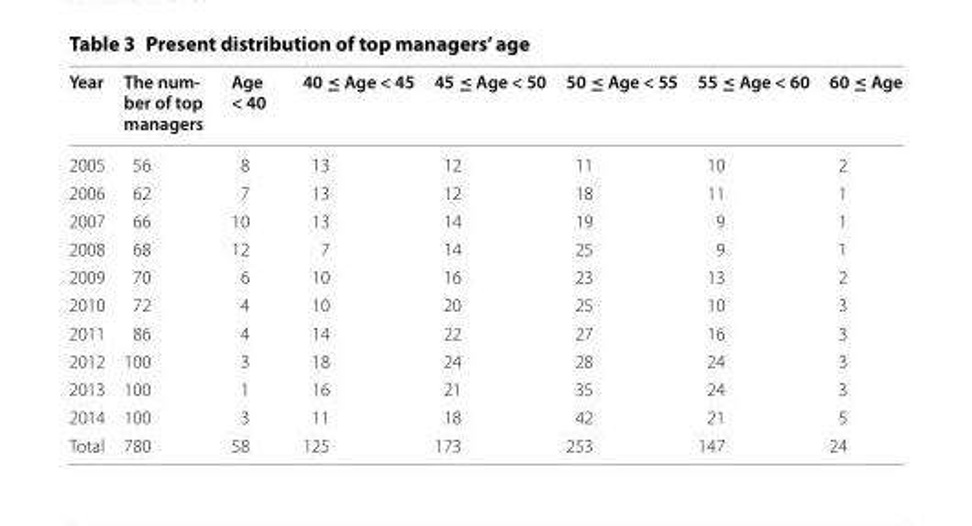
<table><thead><tr><td>Year</td><td>The num- ber of top managers</td><td>Age &lt; 40</td><td>40 ≤ Age &lt; 45</td><td>45 ≤ Age &lt; 50</td><td>50 ≤ Age &lt; 55</td><td>55 ≤ Age &lt; 60</td><td>60 ≤ Age</td></tr></thead><tbody><tr><td>2005</td><td>56</td><td>8</td><td>13</td><td>12</td><td>11</td><td>10</td><td>2</td></tr><tr><td>2006</td><td>62</td><td>7</td><td>13</td><td>12</td><td>18</td><td>11</td><td>1</td></tr><tr><td>2007</td><td>66</td><td>10</td><td>13</td><td>14</td><td>19</td><td>9</td><td>1</td></tr><tr><td>2008</td><td>68</td><td>12</td><td>7</td><td>14</td><td>25</td><td>9</td><td>1</td></tr><tr><td>2009</td><td>70</td><td>6</td><td>10</td><td>16</td><td>23</td><td>13</td><td>2</td></tr><tr><td>2010</td><td>72</td><td>4</td><td>10</td><td>20</td><td>25</td><td>10</td><td>3</td></tr><tr><td>2011</td><td>86</td><td>4</td><td>14</td><td>22</td><td>27</td><td>16</td><td>3</td></tr><tr><td>2012</td><td>100</td><td>3</td><td>18</td><td>24</td><td>28</td><td>24</td><td>3</td></tr><tr><td>2013</td><td>100</td><td>1</td><td>16</td><td>21</td><td>35</td><td>24</td><td>3</td></tr><tr><td>2014</td><td>100</td><td>3</td><td>11</td><td>18</td><td>42</td><td>21</td><td>5</td></tr><tr><td>Total</td><td>780</td><td>58</td><td>125</td><td>173</td><td>253</td><td>147</td><td>24</td></tr></tbody></table>